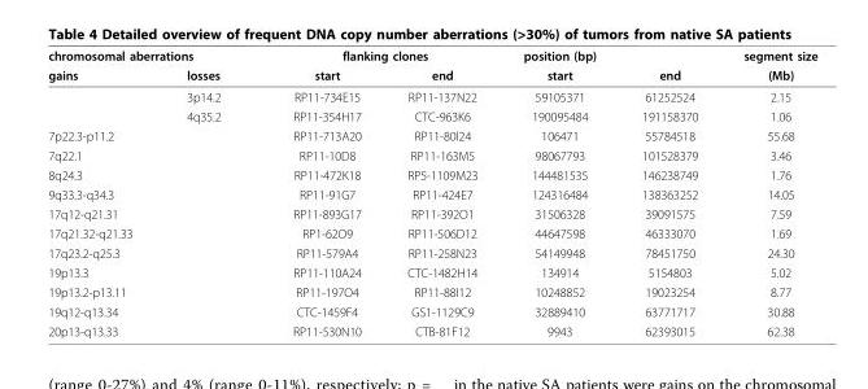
<table><thead><tr><td colspan="2">chromosomal aberrations</td><td colspan="2">flanking clones</td><td rowspan="2">position (bp) start</td><td rowspan="2">end</td><td rowspan="2">segment size (Mb)</td></tr><tr><td>gains</td><td>losses</td><td>start</td><td>end</td></tr></thead><tbody><tr><td></td><td>3p14.2</td><td>RP11-734E15</td><td>RP11-137N22</td><td>59105371</td><td>61252524</td><td>2.15</td></tr><tr><td></td><td>4q35.2</td><td>RP11-354H17</td><td>CTC-963K6</td><td>190095484</td><td>191158370</td><td>1.06</td></tr><tr><td>7p22.3-p11.2</td><td></td><td>RP11-713A20</td><td>RP11-80l24</td><td>106471</td><td>55784518</td><td>55.68</td></tr><tr><td>7q22.1</td><td></td><td>RP11-10D8</td><td>RP11-163M5</td><td>98067793</td><td>101528379</td><td>3.46</td></tr><tr><td>8q24.3</td><td></td><td>RP11-472K18</td><td>RP5-1109M23</td><td>144481535</td><td>146238749</td><td>1.76</td></tr><tr><td>9q33.3-q34.3</td><td></td><td>RP11-91G7</td><td>RP11-424E7</td><td>124316484</td><td>138363252</td><td>14.05</td></tr><tr><td>17q12-q21.31</td><td></td><td>RP11-893G17</td><td>RP11-392O1</td><td>31506328</td><td>39091575</td><td>7.59</td></tr><tr><td>17q21.32-q21.33</td><td></td><td>RP1-62O9</td><td>RP11-506D12</td><td>44647598</td><td>46333070</td><td>1.69</td></tr><tr><td>17q23.2-q25.3</td><td></td><td>RP11-579A4</td><td>RP11-258N23</td><td>54149948</td><td>78451750</td><td>24.30</td></tr><tr><td>19p13.3</td><td></td><td>RP11-110A24</td><td>CTC-1482H14</td><td>134914</td><td>5154803</td><td>5.02</td></tr><tr><td>19p13.2-p13.11</td><td></td><td>RP11-197O4</td><td>RP11-88I12</td><td>10248852</td><td>19023254</td><td>8.77</td></tr><tr><td>19q12-q13.34</td><td></td><td>CTC-1459F4</td><td>GS1-1129C9</td><td>32889410</td><td>63771717</td><td>30.88</td></tr><tr><td>20p13-q13.33</td><td></td><td>RP11-530N10</td><td>CTB-81F12</td><td>9943</td><td>62393015</td><td>62.38</td></tr></tbody></table>